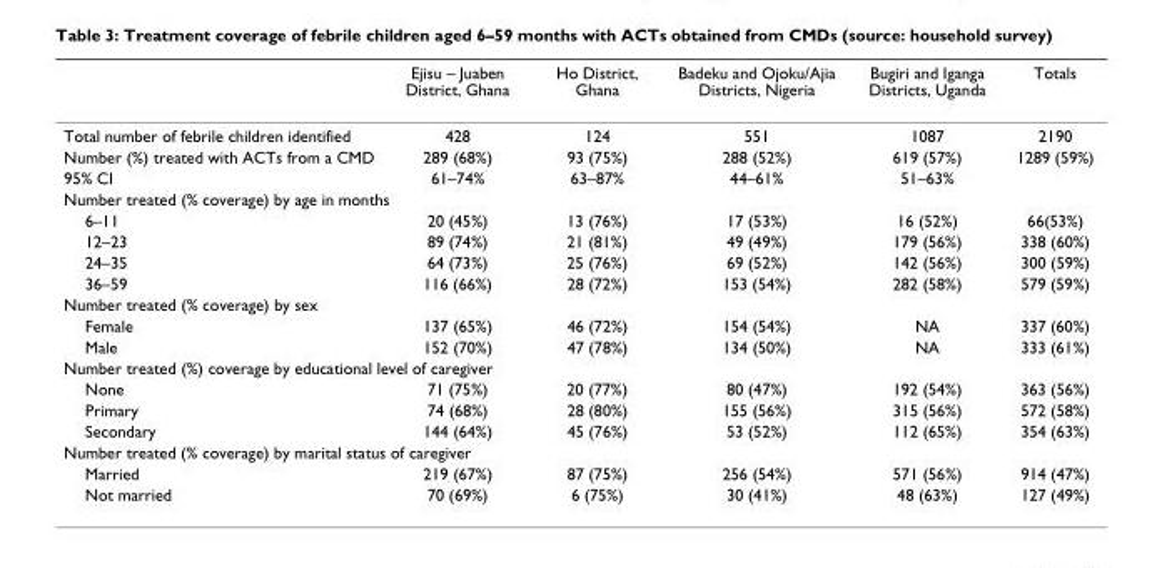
<table><thead><tr><td></td><td>Ejisu – Juaben District, Ghana</td><td>Ho District, Ghana</td><td>Badeku and Ojoku/Ajia Districts, Nigeria</td><td>Bugiri and Iganga Districts, Uganda</td><td>Totals</td></tr></thead><tbody><tr><td>Total number of febrile children identified</td><td>428</td><td>124</td><td>551</td><td>1087</td><td>2190</td></tr><tr><td>Number (%) treated with ACTs from a CMD</td><td>289 (68%)</td><td>93 (75%)</td><td>288 (52%)</td><td>619 (57%)</td><td>1289 (59%)</td></tr><tr><td>95% CI</td><td>61–74%</td><td>63–87%</td><td>44–61%</td><td>51–63%</td><td></td></tr><tr><td colspan="6">Number treated (% coverage) by age in months</td></tr><tr><td>6–11</td><td>20 (45%)</td><td>13 (76%)</td><td>17 (53%)</td><td>16 (52%)</td><td>66(53%)</td></tr><tr><td>12–23</td><td>89 (74%)</td><td>21 (81%)</td><td>49 (49%)</td><td>179 (56%)</td><td>338 (60%)</td></tr><tr><td>24–35</td><td>64 (73%)</td><td>25 (76%)</td><td>69 (52%)</td><td>142 (56%)</td><td>300 (59%)</td></tr><tr><td>36–59</td><td>116 (66%)</td><td>28 (72%)</td><td>153 (54%)</td><td>282 (58%)</td><td>579 (59%)</td></tr><tr><td colspan="6">Number treated (% coverage) by sex</td></tr><tr><td>Female</td><td>137 (65%)</td><td>46 (72%)</td><td>154 (54%)</td><td>NA</td><td>337 (60%)</td></tr><tr><td>Male</td><td>152 (70%)</td><td>47 (78%)</td><td>134 (50%)</td><td>NA</td><td>333 (61%)</td></tr><tr><td colspan="6">Number treated (%) coverage by educational level of caregiver</td></tr><tr><td>None</td><td>71 (75%)</td><td>20 (77%)</td><td>80 (47%)</td><td>192 (54%)</td><td>363 (56%)</td></tr><tr><td>Primary</td><td>74 (68%)</td><td>28 (80%)</td><td>155 (56%)</td><td>315 (56%)</td><td>572 (58%)</td></tr><tr><td>Secondary</td><td>144 (64%)</td><td>45 (76%)</td><td>53 (52%)</td><td>112 (65%)</td><td>354 (63%)</td></tr><tr><td colspan="6">Number treated (% coverage) by marital status of caregiver</td></tr><tr><td>Married</td><td>219 (67%)</td><td>87 (75%)</td><td>256 (54%)</td><td>571 (56%)</td><td>914 (47%)</td></tr><tr><td>Not married</td><td>70 (69%)</td><td>6 (75%)</td><td>30 (41%)</td><td>48 (63%)</td><td>127 (49%)</td></tr></tbody></table>